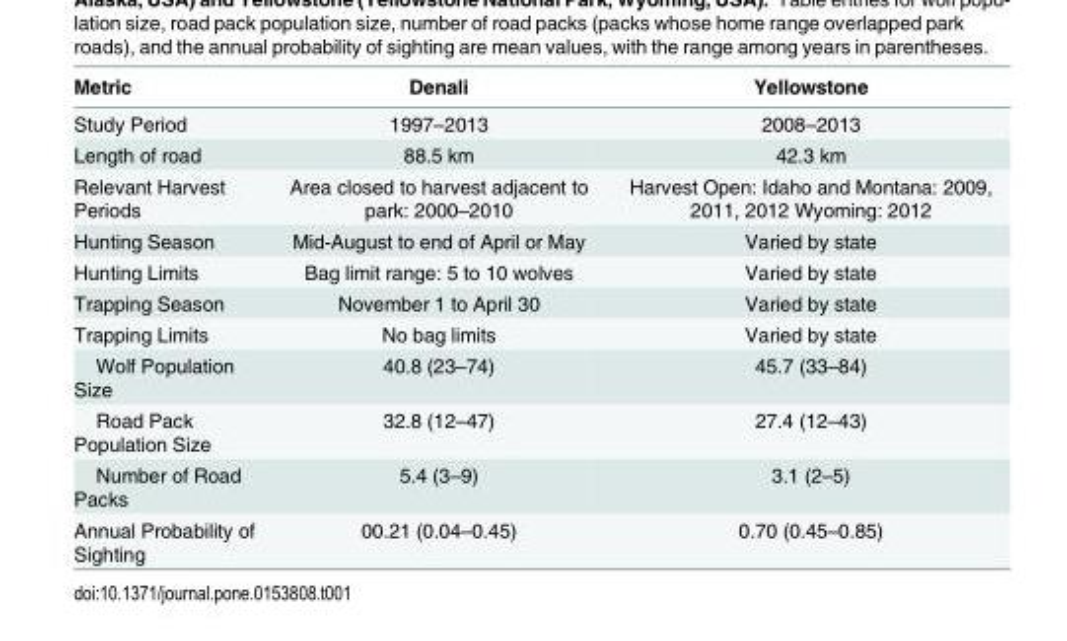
<table><thead><tr><td>Metric</td><td>Denali</td><td>Yellowstone</td></tr></thead><tbody><tr><td>Study Period</td><td>1997–2013</td><td>2008–2013</td></tr><tr><td>Length of road</td><td>88.5 km</td><td>42.3 km</td></tr><tr><td>Relevant Harvest Periods</td><td>Area closed to harvest adjacent to park: 2000–2010</td><td>Harvest Open: Idaho and Montana: 2009, 2011, 2012 Wyoming: 2012</td></tr><tr><td>Hunting Season</td><td>Mid-August to end of April or May</td><td>Varied by state</td></tr><tr><td>Hunting Limits</td><td>Bag limit range: 5 to 10 wolves</td><td>Varied by state</td></tr><tr><td>Trapping Season</td><td>November 1 to April 30</td><td>Varied by state</td></tr><tr><td>Trapping Limits</td><td>No bag limits</td><td>Varied by state</td></tr><tr><td>Wolf Population Size</td><td>40.8 (23–74)</td><td>45.7 (33–84)</td></tr><tr><td>Road Pack Population Size</td><td>32.8 (12–47)</td><td>27.4 (12–43)</td></tr><tr><td>Number of Road Packs</td><td>5.4 (3–9)</td><td>3.1 (2–5)</td></tr><tr><td>Annual Probability of Sighting</td><td>00.21 (0.04–0.45)</td><td>0.70 (0.45–0.85)</td></tr></tbody></table>